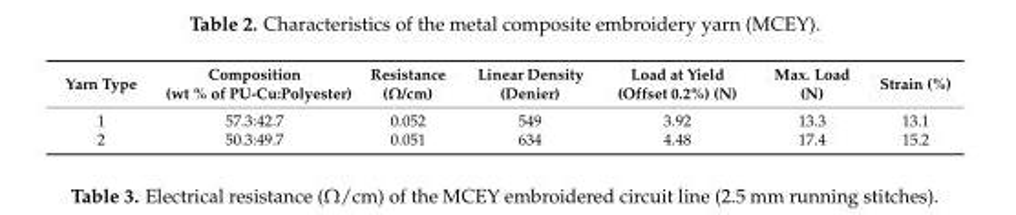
<table><thead><tr><td>Yarn Type</td><td>Composition (wt % of PU-Cu:Polyester)</td><td>Resistance (Ω/cm)</td><td>Linear Density (Denier)</td><td>Load at Yield (Offset 0.2%) (N)</td><td>Max. Load (N)</td><td>Strain (%)</td></tr></thead><tbody><tr><td>1</td><td>57.3:42.7</td><td>0.052</td><td>549</td><td>3.92</td><td>13.3</td><td>13.1</td></tr><tr><td>2</td><td>50.3:49.7</td><td>0.051</td><td>634</td><td>4.48</td><td>17.4</td><td>15.2</td></tr></tbody></table>